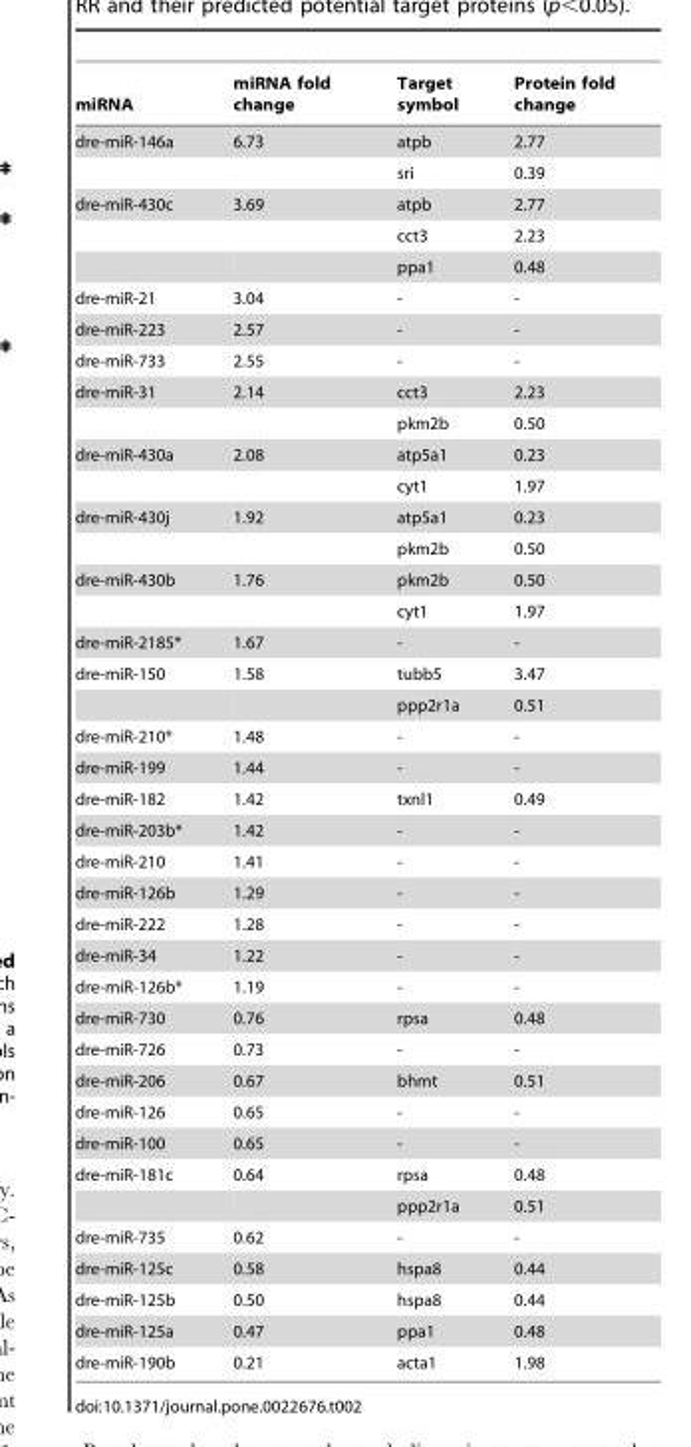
<table><thead><tr><td>miRNA</td><td>miRNA fold change</td><td>Target symbol</td><td>Protein fold change</td></tr></thead><tbody><tr><td rowspan="2">dre-miR-146a</td><td>6.73</td><td>atpb</td><td>2.77</td></tr><tr><td></td><td>sri</td><td>0.39</td></tr><tr><td rowspan="3">dre-miR-430c</td><td>3.69</td><td>atpb</td><td>2.77</td></tr><tr><td></td><td>cct3</td><td>2.23</td></tr><tr><td></td><td>ppa1</td><td>0.48</td></tr><tr><td>dre-miR-21</td><td>3.04</td><td>-</td><td>-</td></tr><tr><td>dre-miR-223</td><td>2.57</td><td>-</td><td>-</td></tr><tr><td>dre-miR-733</td><td>2.55</td><td>-</td><td>-</td></tr><tr><td rowspan="2">dre-miR-31</td><td>2.14</td><td>cct3</td><td>2.23</td></tr><tr><td></td><td>pkm2b</td><td>0.50</td></tr><tr><td rowspan="2">dre-miR-430a</td><td>2.08</td><td>atp5a1</td><td>0.23</td></tr><tr><td></td><td>cyt1</td><td>1.97</td></tr><tr><td rowspan="2">dre-miR-430j</td><td>1.92</td><td>atp5a1</td><td>0.23</td></tr><tr><td></td><td>pkm2b</td><td>0.50</td></tr><tr><td rowspan="2">dre-miR-430b</td><td>1.76</td><td>pkm2b</td><td>0.50</td></tr><tr><td></td><td>cyt1</td><td>1.97</td></tr><tr><td>dre-miR-2185*</td><td>1.67</td><td>-</td><td>-</td></tr><tr><td rowspan="2">dre-miR-150</td><td>1.58</td><td>tubb5</td><td>3.47</td></tr><tr><td></td><td>ppp2r1a</td><td>0.51</td></tr><tr><td>dre-miR-210*</td><td>1.48</td><td>-</td><td>-</td></tr><tr><td>dre-miR-199</td><td>1.44</td><td>-</td><td>-</td></tr><tr><td>dre-miR-182</td><td>1.42</td><td>txnl1</td><td>0.49</td></tr><tr><td>dre-miR-203b*</td><td>1.42</td><td>-</td><td>-</td></tr><tr><td>dre-miR-210</td><td>1.41</td><td>-</td><td>-</td></tr><tr><td>dre-miR-126b</td><td>1.29</td><td>-</td><td>-</td></tr><tr><td>dre-miR-222</td><td>1.28</td><td>-</td><td>-</td></tr><tr><td>dre-miR-34</td><td>1.22</td><td>-</td><td>-</td></tr><tr><td>dre-miR-126b*</td><td>1.19</td><td>-</td><td>-</td></tr><tr><td>dre-miR-730</td><td>0.76</td><td>rpsa</td><td>0.48</td></tr><tr><td>dre-miR-726</td><td>0.73</td><td>-</td><td>-</td></tr><tr><td>dre-miR-206</td><td>0.67</td><td>bhmt</td><td>0.51</td></tr><tr><td>dre-miR-126</td><td>0.65</td><td>-</td><td>-</td></tr><tr><td>dre-miR-100</td><td>0.65</td><td>-</td><td>-</td></tr><tr><td rowspan="2">dre-miR-181c</td><td>0.64</td><td>rpsa</td><td>0.48</td></tr><tr><td></td><td>ppp2r1a</td><td>0.51</td></tr><tr><td>dre-miR-735</td><td>0.62</td><td>-</td><td>-</td></tr><tr><td>dre-miR-125c</td><td>0.58</td><td>hspa8</td><td>0.44</td></tr><tr><td>dre-miR-125b</td><td>0.50</td><td>hspa8</td><td>0.44</td></tr><tr><td>dre-miR-125a</td><td>0.47</td><td>ppa1</td><td>0.48</td></tr><tr><td>dre-miR-190b</td><td>0.21</td><td>acta1</td><td>1.98</td></tr></tbody></table>